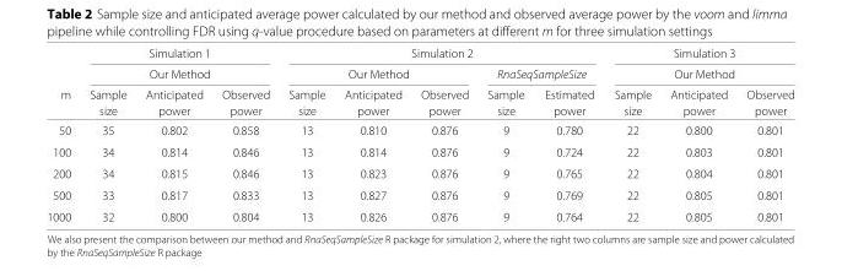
<table><thead><tr><td rowspan="4">m</td><td rowspan="2" colspan="3">Simulation 1 Our Method</td><td colspan="5">Simulation 2</td><td rowspan="2" colspan="3">Simulation 3 Our Method</td></tr><tr><td colspan="3">Our Method</td><td colspan="2">RnaSeqSampleSize</td></tr><tr><td rowspan="2">Sample size</td><td rowspan="2">Anticipated power</td><td rowspan="2">Observed power</td><td rowspan="2">Sample size</td><td rowspan="2">Anticipated power</td><td rowspan="2">Observed power</td><td rowspan="2">Sample size</td><td rowspan="2">Estimated power</td><td rowspan="2">Sample size</td><td rowspan="2">Anticipated power</td><td rowspan="2">Observed power</td></tr><tr></tr></thead><tbody><tr><td>50</td><td>35</td><td>0.802</td><td>0.858</td><td>13</td><td>0.810</td><td>0.876</td><td>9</td><td>0.780</td><td>22</td><td>0.800</td><td>0.801</td></tr><tr><td>100</td><td>34</td><td>0.814</td><td>0.846</td><td>13</td><td>0.814</td><td>0.876</td><td>9</td><td>0.724</td><td>22</td><td>0.803</td><td>0.801</td></tr><tr><td>200</td><td>34</td><td>0.815</td><td>0.846</td><td>13</td><td>0.823</td><td>0.876</td><td>9</td><td>0.765</td><td>22</td><td>0.804</td><td>0.801</td></tr><tr><td>500</td><td>33</td><td>0.817</td><td>0.833</td><td>13</td><td>0.827</td><td>0.876</td><td>9</td><td>0.769</td><td>22</td><td>0.805</td><td>0.801</td></tr><tr><td>1000</td><td>32</td><td>0.800</td><td>0.804</td><td>13</td><td>0.826</td><td>0.876</td><td>9</td><td>0.764</td><td>22</td><td>0.805</td><td>0.801</td></tr></tbody></table>